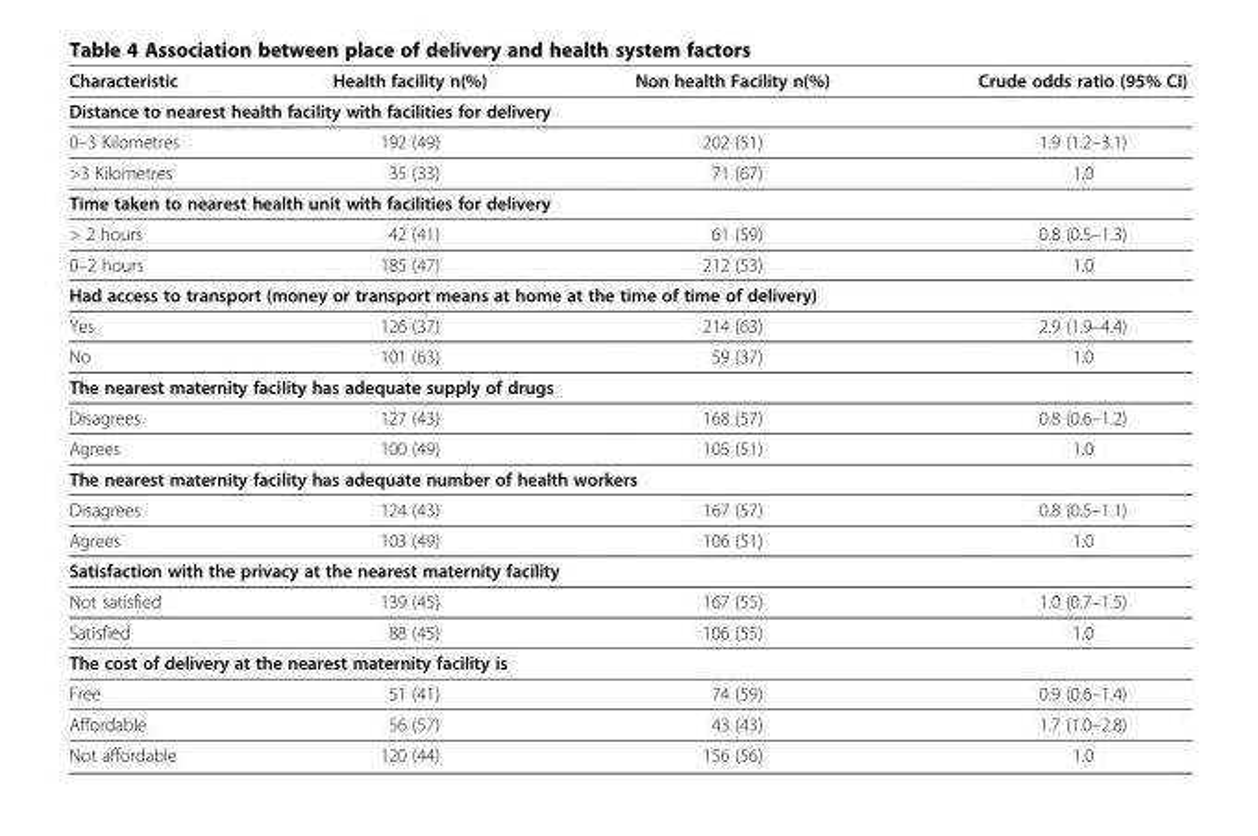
<table><thead><tr><td>Characteristic</td><td>Health facility n(%)</td><td>Non health Facility n(%)</td><td>Crude odds ratio (95% CI)</td></tr></thead><tbody><tr><td colspan="4">Distance to nearest health facility with facilities for delivery</td></tr><tr><td>0–3 Kilometres</td><td>192 (49)</td><td>202 (51)</td><td>1.9 (1.2–3.1)</td></tr><tr><td>&gt;3 Kilometres</td><td>35 (33)</td><td>71 (67)</td><td>1.0</td></tr><tr><td colspan="4">Time taken to nearest health unit with facilities for delivery</td></tr><tr><td>&gt; 2 hours</td><td>42 (41)</td><td>61 (59)</td><td>0.8 (0.5–1.3)</td></tr><tr><td>0–2 hours</td><td>185 (47)</td><td>212 (53)</td><td>1.0</td></tr><tr><td colspan="4">Had access to transport (money or transport means at home at the time of time of delivery)</td></tr><tr><td>Yes</td><td>126 (37)</td><td>214 (63)</td><td>2.9 (1.9–4.4)</td></tr><tr><td>No</td><td>101 (63)</td><td>59 (37)</td><td>1.0</td></tr><tr><td colspan="4">The nearest maternity facility has adequate supply of drugs</td></tr><tr><td>Disagrees</td><td>127 (43)</td><td>168 (57)</td><td>0.8 (0.6–1.2)</td></tr><tr><td>Agrees</td><td>100 (49)</td><td>105 (51)</td><td>1.0</td></tr><tr><td colspan="4">The nearest maternity facility has adequate number of health workers</td></tr><tr><td>Disagrees</td><td>124 (43)</td><td>167 (57)</td><td>0.8 (0.5–1.1)</td></tr><tr><td>Agrees</td><td>103 (49)</td><td>106 (51)</td><td>1.0</td></tr><tr><td colspan="4">Satisfaction with the privacy at the nearest maternity facility</td></tr><tr><td>Not satisfied</td><td>139 (45)</td><td>167 (55)</td><td>1.0 (0.7–1.5)</td></tr><tr><td>Satisfied</td><td>88 (45)</td><td>106 (55)</td><td>1.0</td></tr><tr><td colspan="4">The cost of delivery at the nearest maternity facility is</td></tr><tr><td>Free</td><td>51 (41)</td><td>74 (59)</td><td>0.9 (0.6–1.4)</td></tr><tr><td>Affordable</td><td>56 (57)</td><td>43 (43)</td><td>1.7 (1.0–2.8)</td></tr><tr><td>Not affordable</td><td>120 (44)</td><td>156 (56)</td><td>1.0</td></tr></tbody></table>